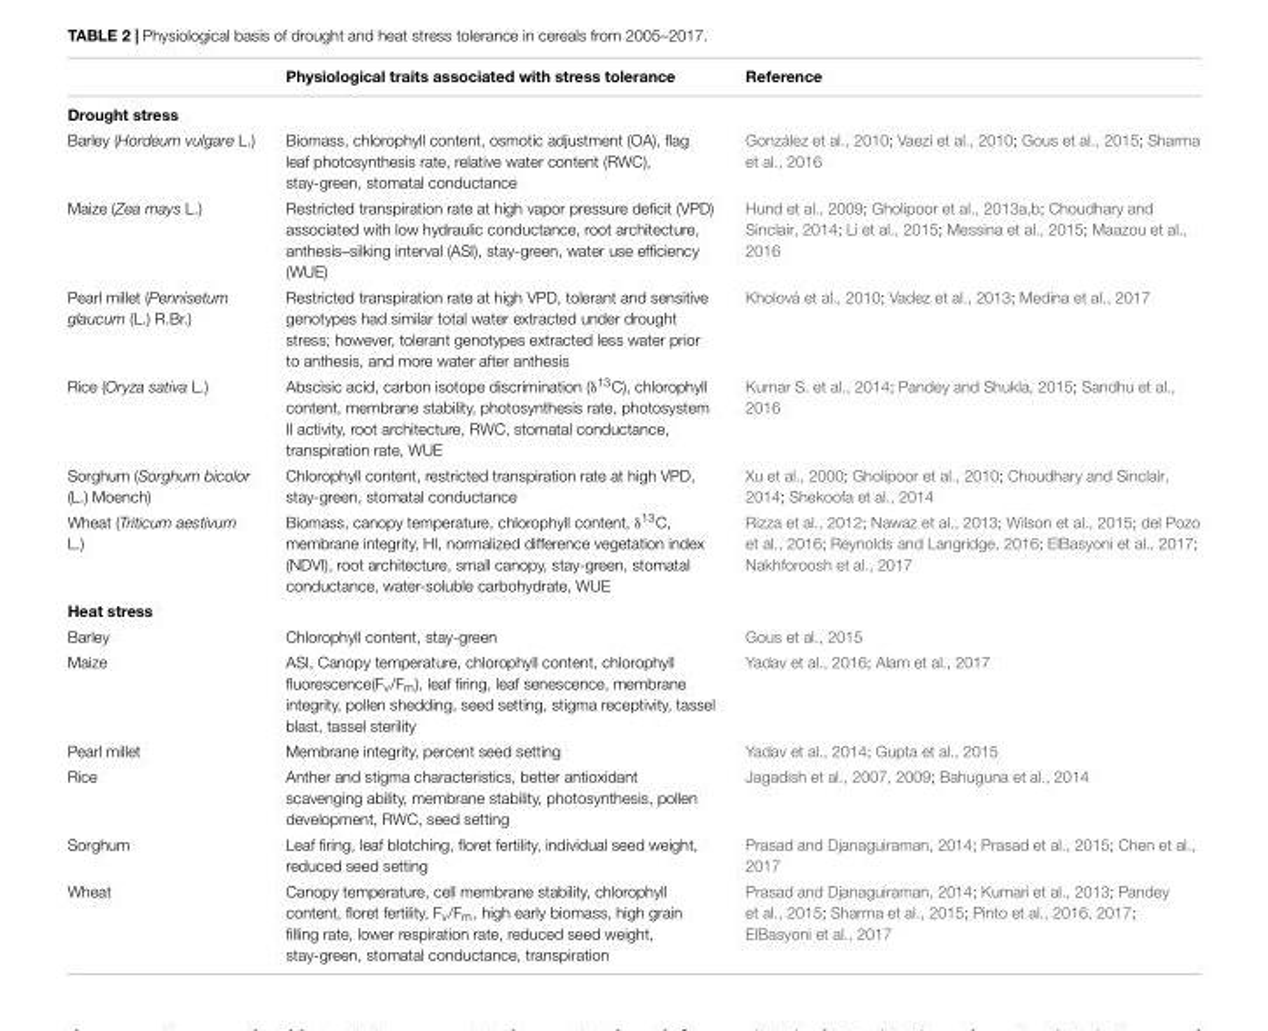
<table><thead><tr><td></td><td>Physiological traits associated with stress tolerance</td><td>Reference</td></tr></thead><tbody><tr><td colspan="3">Drought stress</td></tr><tr><td>Barley (Hordeum vulgare L.)</td><td>Biomass, chlorophyll content, osmotic adjustment (OA), flag leaf photosynthesis rate, relative water content (RWC), stay-green, stomatal conductance</td><td>González et al., 2010; Vaezi et al., 2010; Gous et al., 2015; Sharma et al., 2016</td></tr><tr><td>Maize (Zea mays L.)</td><td>Restricted transpiration rate at high vapor pressure deficit (VPD) associated with low hydraulic conductance, root architecture, anthesis–silking interval (ASI), stay-green, water use efficiency (WUE)</td><td>Hund et al., 2009; Gholipoor et al., 2013a,b; Choudhary and Sinclair, 2014; Li et al., 2015; Messina et al., 2015; Maazou et al., 2016</td></tr><tr><td>Pearl millet (Pennisetum glaucum (L.) R.Br.)</td><td>Restricted transpiration rate at high VPD, tolerant and sensitive genotypes had similar total water extracted under drought stress; however, tolerant genotypes extracted less water prior to anthesis, and more water after anthesis</td><td>Kholová et al., 2010; Vadez et al., 2013; Medina et al., 2017</td></tr><tr><td>Rice (Oryza sativa L.)</td><td>Abscisic acid, carbon isotope discrimination (δ<sup>13</sup>C), chlorophyll content, membrane stability, photosynthesis rate, photosystem II activity, root architecture, RWC, stomatal conductance, transpiration rate, WUE</td><td>Kumar S. et al., 2014; Pandey and Shukla, 2015; Sandhu et al., 2016</td></tr><tr><td>Sorghum (Sorghum bicolor (L.) Moench)</td><td>Chlorophyll content, restricted transpiration rate at high VPD, stay-green, stomatal conductance</td><td>Xu et al., 2000; Gholipoor et al., 2010; Choudhary and Sinclair, 2014; Shekoofa et al., 2014</td></tr><tr><td>Wheat (Triticum aestivum L.)</td><td>Biomass, canopy temperature, chlorophyll content, δ<sup>13</sup>C, membrane integrity, HI, normalized difference vegetation index (NDVI), root architecture, small canopy, stay-green, stomatal conductance, water-soluble carbohydrate, WUE</td><td>Rizza et al., 2012; Nawaz et al., 2013; Wilson et al., 2015; del Pozo et al., 2016; Reynolds and Langridge, 2016; ElBasyoni et al., 2017; Nakhforoosh et al., 2017</td></tr><tr><td colspan="3">Heat stress</td></tr><tr><td>Barley</td><td>Chlorophyll content, stay-green</td><td>Gous et al., 2015</td></tr><tr><td>Maize</td><td>ASI, Canopy temperature, chlorophyll content, chlorophyll fluorescence(F<sub>v</sub>/F<sub>m</sub>), leaf firing, leaf senescence, membrane integrity, pollen shedding, seed setting, stigma receptivity, tassel blast, tassel sterility</td><td>Yadav et al., 2016; Alam et al., 2017</td></tr><tr><td>Pearl millet</td><td>Membrane integrity, percent seed setting</td><td>Yadav et al., 2014; Gupta et al., 2015</td></tr><tr><td>Rice</td><td>Anther and stigma characteristics, better antioxidant scavenging ability, membrane stability, photosynthesis, pollen development, RWC, seed setting</td><td>Jagadish et al., 2007, 2009; Bahuguna et al., 2014</td></tr><tr><td>Sorghum</td><td>Leaf firing, leaf blotching, floret fertility, individual seed weight, reduced seed setting</td><td>Prasad and Djanaguiraman, 2014; Prasad et al., 2015; Chen et al., 2017</td></tr><tr><td>Wheat</td><td>Canopy temperature, cell membrane stability, chlorophyll content, floret fertility, F<sub>v</sub>/F<sub>m</sub>, high early biomass, high grain filling rate, lower respiration rate, reduced seed weight, stay-green, stomatal conductance, transpiration</td><td>Prasad and Djanaguiraman, 2014; Kumari et al., 2013; Pandey et al., 2015; Sharma et al., 2015; Pinto et al., 2016, 2017; ElBasyoni et al., 2017</td></tr></tbody></table>